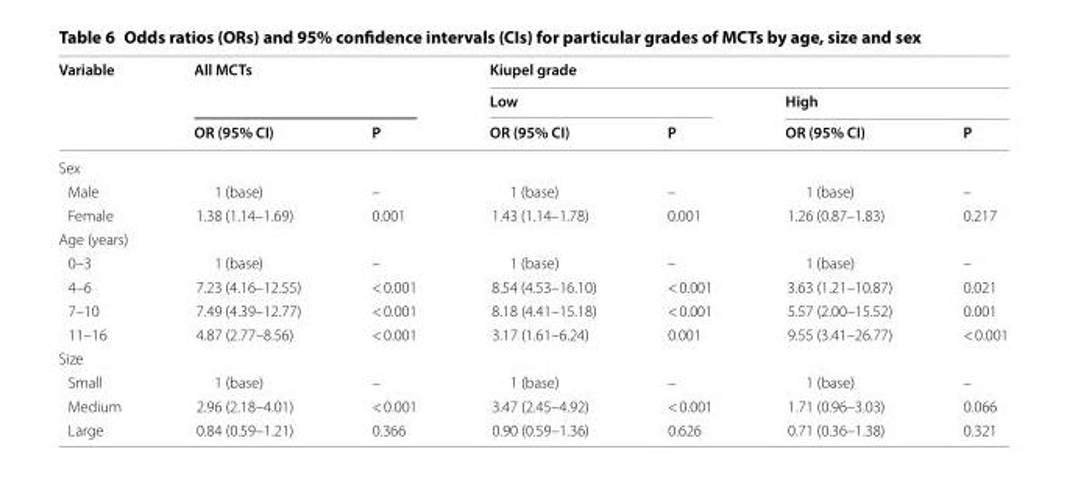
<table><thead><tr><td rowspan="3">Variable</td><td rowspan="2" colspan="2">All MCTs</td><td colspan="4">Kiupel grade</td></tr><tr><td colspan="2">Low</td><td colspan="2">High</td></tr><tr><td>OR (95% CI)</td><td>P</td><td>OR (95% CI)</td><td>P</td><td>OR (95% CI)</td><td>P</td></tr></thead><tbody><tr><td colspan="7">Sex</td></tr><tr><td>Male</td><td>1 (base)</td><td>–</td><td>1 (base)</td><td>–</td><td>1 (base)</td><td>–</td></tr><tr><td>Female</td><td>1.38 (1.14–1.69)</td><td>0.001</td><td>1.43 (1.14–1.78)</td><td>0.001</td><td>1.26 (0.87–1.83)</td><td>0.217</td></tr><tr><td colspan="7">Age (years)</td></tr><tr><td>0–3</td><td>1 (base)</td><td>–</td><td>1 (base)</td><td>–</td><td>1 (base)</td><td>–</td></tr><tr><td>4–6</td><td>7.23 (4.16–12.55)</td><td>&lt; 0.001</td><td>8.54 (4.53–16.10)</td><td>&lt; 0.001</td><td>3.63 (1.21–10.87)</td><td>0.021</td></tr><tr><td>7–10</td><td>7.49 (4.39–12.77)</td><td>&lt; 0.001</td><td>8.18 (4.41–15.18)</td><td>&lt; 0.001</td><td>5.57 (2.00–15.52)</td><td>0.001</td></tr><tr><td>11–16</td><td>4.87 (2.77–8.56)</td><td>&lt; 0.001</td><td>3.17 (1.61–6.24)</td><td>0.001</td><td>9.55 (3.41–26.77)</td><td>&lt; 0.001</td></tr><tr><td colspan="7">Size</td></tr><tr><td>Small</td><td>1 (base)</td><td>–</td><td>1 (base)</td><td>–</td><td>1 (base)</td><td>–</td></tr><tr><td>Medium</td><td>2.96 (2.18–4.01)</td><td>&lt; 0.001</td><td>3.47 (2.45–4.92)</td><td>&lt; 0.001</td><td>1.71 (0.96–3.03)</td><td>0.066</td></tr><tr><td>Large</td><td>0.84 (0.59–1.21)</td><td>0.366</td><td>0.90 (0.59–1.36)</td><td>0.626</td><td>0.71 (0.36–1.38)</td><td>0.321</td></tr></tbody></table>